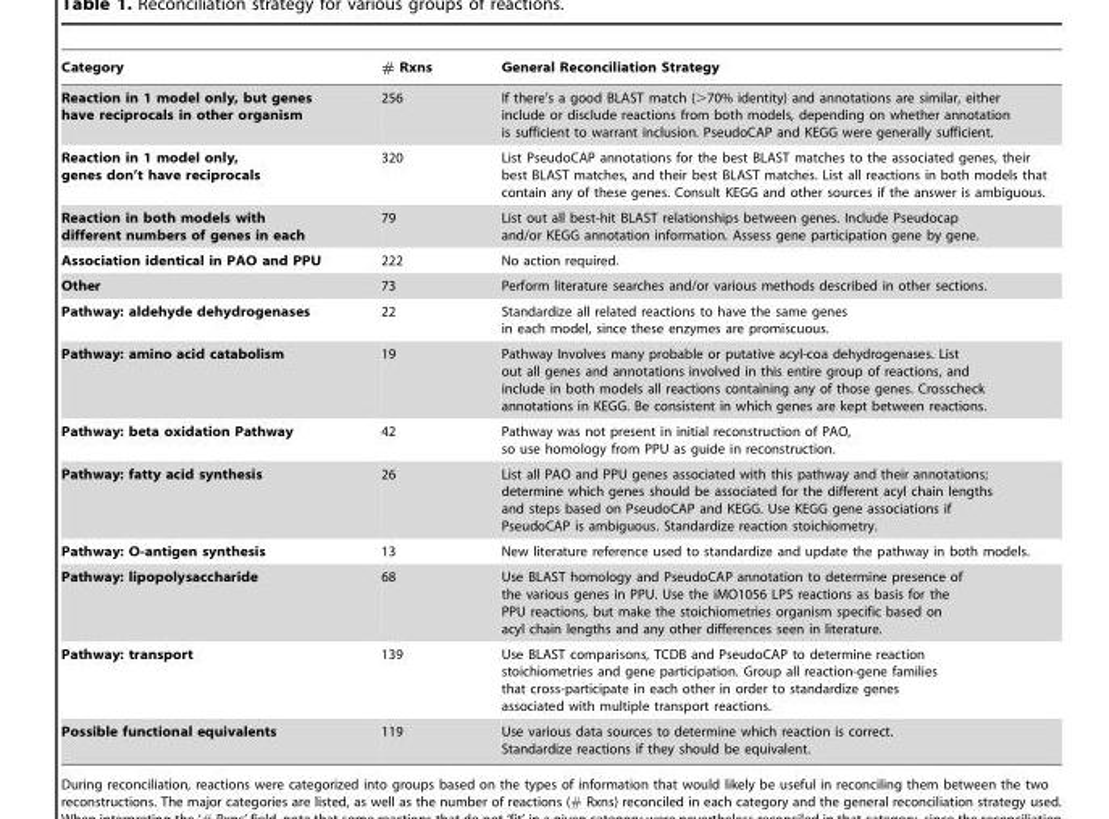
<table><thead><tr><td>Category</td><td># Rxns</td><td>General Reconciliation Strategy</td></tr></thead><tbody><tr><td>Reaction in 1 model only, but genes have reciprocals in other organism</td><td>256</td><td>If there’s a good BLAST match (&gt;70% identity) and annotations are similar, either include or disclude reactions from both models, depending on whether annotation is sufficient to warrant inclusion. PseudoCAP and KEGG were generally sufficient.</td></tr><tr><td>Reaction in 1 model only, genes don’t have reciprocals</td><td>320</td><td>List PseudoCAP annotations for the best BLAST matches to the associated genes, their best BLAST matches, and their best BLAST matches. List all reactions in both models that contain any of these genes. Consult KEGG and other sources if the answer is ambiguous.</td></tr><tr><td>Reaction in both models with different numbers of genes in each</td><td>79</td><td>List out all best-hit BLAST relationships between genes. Include Pseudocap and/or KEGG annotation information. Assess gene participation gene by gene.</td></tr><tr><td>Association identical in PAO and PPU</td><td>222</td><td>No action required.</td></tr><tr><td>Other</td><td>73</td><td>Perform literature searches and/or various methods described in other sections.</td></tr><tr><td>Pathway: aldehyde dehydrogenases</td><td>22</td><td>Standardize all related reactions to have the same genes in each model, since these enzymes are promiscuous.</td></tr><tr><td>Pathway: amino acid catabolism</td><td>19</td><td>Pathway Involves many probable or putative acyl-coa dehydrogenases. List out all genes and annotations involved in this entire group of reactions, and include in both models all reactions containing any of those genes. Crosscheck annotations in KEGG. Be consistent in which genes are kept between reactions.</td></tr><tr><td>Pathway: beta oxidation Pathway</td><td>42</td><td>Pathway was not present in initial reconstruction of PAO, so use homology from PPU as guide in reconstruction.</td></tr><tr><td>Pathway: fatty acid synthesis</td><td>26</td><td>List all PAO and PPU genes associated with this pathway and their annotations; determine which genes should be associated for the different acyl chain lengths and steps based on PseudoCAP and KEGG. Use KEGG gene associations if PseudoCAP is ambiguous. Standardize reaction stoichiometry.</td></tr><tr><td>Pathway: O-antigen synthesis</td><td>13</td><td>New literature reference used to standardize and update the pathway in both models.</td></tr><tr><td>Pathway: lipopolysaccharide</td><td>68</td><td>Use BLAST homology and PseudoCAP annotation to determine presence of the various genes in PPU. Use the iMO1056 LPS reactions as basis for the PPU reactions, but make the stoichiometries organism specific based on acyl chain lengths and any other differences seen in literature.</td></tr><tr><td>Pathway: transport</td><td>139</td><td>Use BLAST comparisons, TCDB and PseudoCAP to determine reaction stoichiometries and gene participation. Group all reaction-gene families that cross-participate in each other in order to standardize genes associated with multiple transport reactions.</td></tr><tr><td>Possible functional equivalents</td><td>119</td><td>Use various data sources to determine which reaction is correct. Standardize reactions if they should be equivalent.</td></tr></tbody></table>